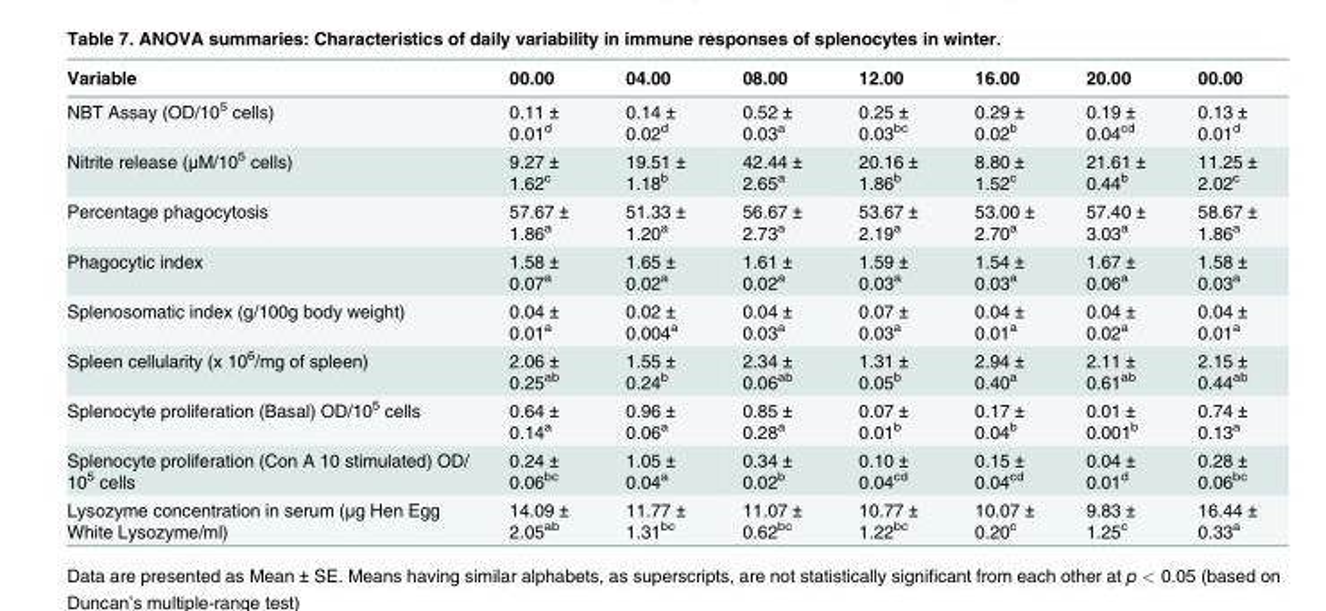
<table><thead><tr><td>Variable</td><td>00.00</td><td>04.00</td><td>08.00</td><td>12.00</td><td>16.00</td><td>20.00</td><td>00.00</td></tr></thead><tbody><tr><td>NBT Assay (OD/10<sup>5</sup> cells)</td><td>0.11 ± 0.01<sup>d</sup></td><td>0.14 ± 0.02<sup>d</sup></td><td>0.52 ± 0.03<sup>a</sup></td><td>0.25 ± 0.03<sup>bc</sup></td><td>0.29 ± 0.02<sup>b</sup></td><td>0.19 ± 0.04<sup>cd</sup></td><td>0.13 ± 0.01<sup>d</sup></td></tr><tr><td>Nitrite release (μM/10<sup>5</sup> cells)</td><td>9.27 ± 1.62<sup>c</sup></td><td>19.51 ± 1.18<sup>b</sup></td><td>42.44 ± 2.65<sup>a</sup></td><td>20.16 ± 1.86<sup>b</sup></td><td>8.80 ± 1.52<sup>c</sup></td><td>21.61 ± 0.44<sup>b</sup></td><td>11.25 ± 2.02<sup>c</sup></td></tr><tr><td>Percentage phagocytosis</td><td>57.67 ± 1.86<sup>a</sup></td><td>51.33 ± 1.20<sup>a</sup></td><td>56.67 ± 2.73<sup>a</sup></td><td>53.67 ± 2.19<sup>a</sup></td><td>53.00 ± 2.70<sup>a</sup></td><td>57.40 ± 3.03<sup>a</sup></td><td>58.67 ± 1.86<sup>a</sup></td></tr><tr><td>Phagocytic index</td><td>1.58 ± 0.07<sup>a</sup></td><td>1.65 ± 0.02<sup>a</sup></td><td>1.61 ± 0.02<sup>a</sup></td><td>1.59 ± 0.03<sup>a</sup></td><td>1.54 ± 0.03<sup>a</sup></td><td>1.67 ± 0.06<sup>a</sup></td><td>1.58 ± 0.03<sup>a</sup></td></tr><tr><td>Splenosomatic index (g/100g body weight)</td><td>0.04 ± 0.01<sup>a</sup></td><td>0.02 ± 0.004<sup>a</sup></td><td>0.04 ± 0.03<sup>a</sup></td><td>0.07 ± 0.03<sup>a</sup></td><td>0.04 ± 0.01<sup>a</sup></td><td>0.04 ± 0.02<sup>a</sup></td><td>0.04 ± 0.01<sup>a</sup></td></tr><tr><td>Spleen cellularity (x 10<sup>6</sup>/mg of spleen)</td><td>2.06 ± 0.25<sup>ab</sup></td><td>1.55 ± 0.24<sup>b</sup></td><td>2.34 ± 0.06<sup>ab</sup></td><td>1.31 ± 0.05<sup>b</sup></td><td>2.94 ± 0.40<sup>a</sup></td><td>2.11 ± 0.61<sup>ab</sup></td><td>2.15 ± 0.44<sup>ab</sup></td></tr><tr><td>Splenocyte proliferation (Basal) OD/10<sup>5</sup> cells</td><td>0.64 ± 0.14<sup>a</sup></td><td>0.96 ± 0.06<sup>a</sup></td><td>0.85 ± 0.28<sup>a</sup></td><td>0.07 ± 0.01<sup>b</sup></td><td>0.17 ± 0.04<sup>b</sup></td><td>0.01 ± 0.001<sup>b</sup></td><td>0.74 ± 0.13<sup>a</sup></td></tr><tr><td>Splenocyte proliferation (Con A 10 stimulated) OD/ 10<sup>5</sup> cells</td><td>0.24 ± 0.06<sup>bc</sup></td><td>1.05 ± 0.04<sup>a</sup></td><td>0.34 ± 0.02<sup>b</sup></td><td>0.10 ± 0.04<sup>cd</sup></td><td>0.15 ± 0.04<sup>cd</sup></td><td>0.04 ± 0.01<sup>d</sup></td><td>0.28 ± 0.06<sup>bc</sup></td></tr><tr><td>Lysozyme concentration in serum (μg Hen Egg White Lysozyme/ml)</td><td>14.09 ± 2.05<sup>ab</sup></td><td>11.77 ± 1.31<sup>bc</sup></td><td>11.07 ± 0.62<sup>bc</sup></td><td>10.77 ± 1.22<sup>bc</sup></td><td>10.07 ± 0.20<sup>c</sup></td><td>9.83 ± 1.25<sup>c</sup></td><td>16.44 ± 0.33<sup>a</sup></td></tr></tbody></table>